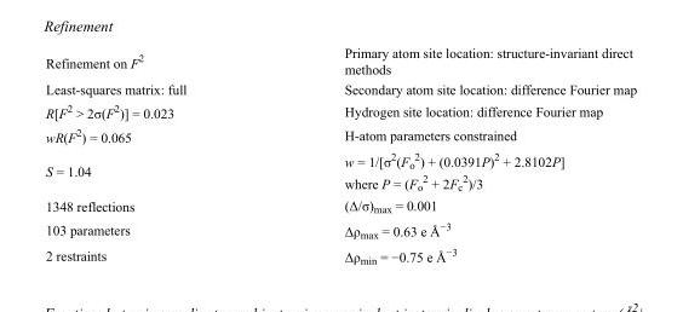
<table><tbody><tr><td>Refinement on F<sup>2</sup></td><td>Primary atom site location: structure-invariant direct methods</td></tr><tr><td>Least-squares matrix: full</td><td>Secondary atom site location: difference Fourier map</td></tr><tr><td>R[F<sup>2</sup> &gt; 2σ(F<sup>2</sup>)] = 0.023</td><td>Hydrogen site location: difference Fourier map</td></tr><tr><td>wR(F<sup>2</sup>) = 0.065</td><td>H-atom parameters constrained</td></tr><tr><td>S = 1.04</td><td>w = 1/[σ<sup>2</sup>(F<sub>o</sub> <sup>2</sup>) + (0.0391P)<sup>2</sup> + 2.8102P] where P = (F<sub>o</sub> <sup>2</sup> + 2F<sub>c</sub> <sup>2</sup>)/3</td></tr><tr><td>1348 reflections</td><td>(Δ/σ)<sub>max</sub> = 0.001</td></tr><tr><td>103 parameters</td><td>Δρ<sub>max</sub> = 0.63 e Å<sup>−3</sup></td></tr><tr><td>2 restraints</td><td>Δρ<sub>min</sub> = −0.75 e Å<sup>−3</sup></td></tr></tbody></table>